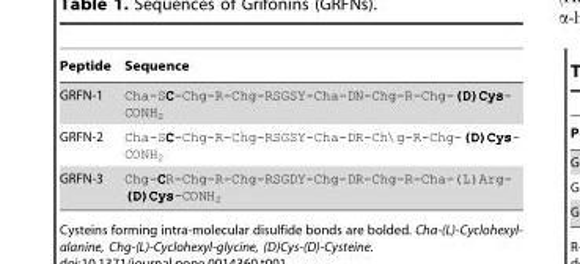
<table><thead><tr><td>Peptide</td><td>Sequence</td></tr></thead><tbody><tr><td>GRFN-1</td><td>Cha-SCC-Chg-R-Chg-RSGSY-Cha-DN-Chg-R-Chg-((D)Cys- CONH2</td></tr><tr><td>GRFN-2</td><td>Cha-SCC-Chg-R-Chg-RSGSY-Cha-DR-Ch\g-R-Chg-((D)Cys- CONH2</td></tr><tr><td>GRFN-3</td><td>Chg-CCR-Chg-R-Chg-RSGDY-Chg-DR-Chg-R-Cha-(L)Arg- (D)Cys-CONH2</td></tr></tbody></table>